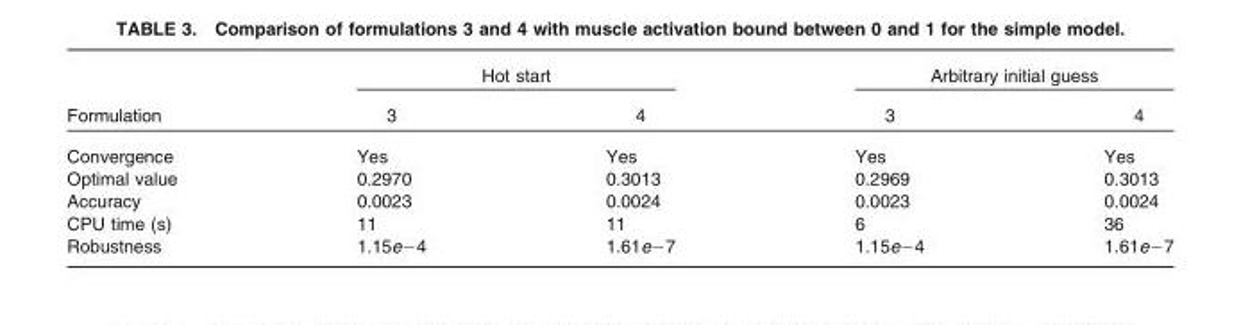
<table><thead><tr><td rowspan="2">Formulation</td><td colspan="2">Hot start</td><td colspan="2">Arbitrary initial guess</td></tr><tr><td>3</td><td>4</td><td>3</td><td>4</td></tr></thead><tbody><tr><td>Convergence</td><td>Yes</td><td>Yes</td><td>Yes</td><td>Yes</td></tr><tr><td>Optimal value</td><td>0.2970</td><td>0.3013</td><td>0.2969</td><td>0.3013</td></tr><tr><td>Accuracy</td><td>0.0023</td><td>0.0024</td><td>0.0023</td><td>0.0024</td></tr><tr><td>CPU time (s)</td><td>11</td><td>11</td><td>6</td><td>36</td></tr><tr><td>Robustness</td><td>1.15e−4</td><td>1.61e−7</td><td>1.15e−4</td><td>1.61e−7</td></tr></tbody></table>